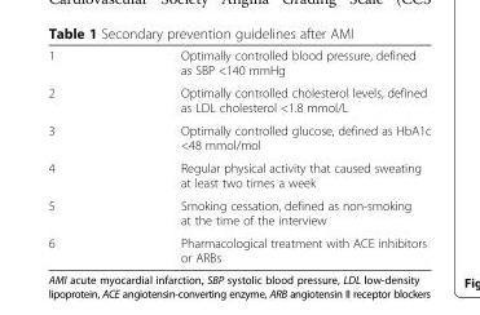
<table><tbody><tr><td>1</td><td>Optimally controlled blood pressure, defined as SBP &lt;140 mmHg</td></tr><tr><td>2</td><td>Optimally controlled cholesterol levels, defined as LDL cholesterol &lt;1.8 mmol/L</td></tr><tr><td>3</td><td>Optimally controlled glucose, defined as HbA1c &lt;48 mmol/mol</td></tr><tr><td>4</td><td>Regular physical activity that caused sweating at least two times a week</td></tr><tr><td>5</td><td>Smoking cessation, defined as non-smoking at the time of the interview</td></tr><tr><td>6</td><td>Pharmacological treatment with ACE inhibitors or ARBs</td></tr></tbody></table>